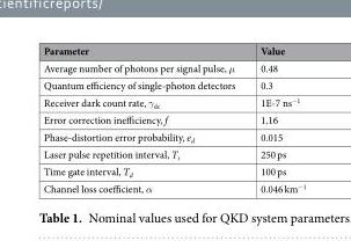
<table><thead><tr><td>Parameter</td><td>Value</td></tr></thead><tbody><tr><td>Average number of photons per signal pulse, μ</td><td>0.48</td></tr><tr><td>Quantum efficiency of single-photon detectors</td><td>0.3</td></tr><tr><td>Receiver dark count rate, γ<sub>dc</sub></td><td>1E-7 ns<sup>−1</sup></td></tr><tr><td>Error correction inefficiency, f</td><td>1.16</td></tr><tr><td>Phase-distortion error probability, e<sub>d</sub></td><td>0.015</td></tr><tr><td>Laser pulse repetition interval, T<sub>s</sub></td><td>250 ps</td></tr><tr><td>Time gate interval, T<sub>d</sub></td><td>100 ps</td></tr><tr><td>Channel loss coefficient, α</td><td>0.046 km<sup>−1</sup></td></tr></tbody></table>